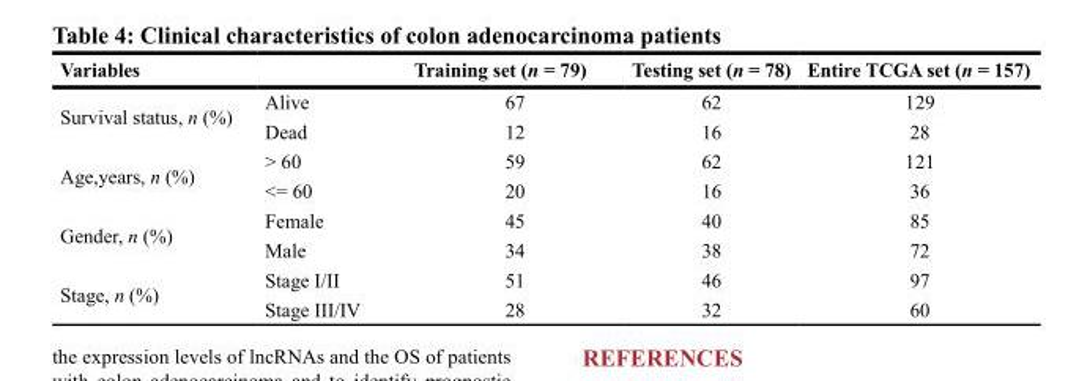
<table><thead><tr><td>Variables</td><td></td><td>Training set (n = 79)</td><td>Testing set (n = 78)</td><td>Entire TCGA set (n = 157)</td></tr></thead><tbody><tr><td rowspan="2">Survival status, n (%)</td><td>Alive</td><td>67</td><td>62</td><td>129</td></tr><tr><td>Dead</td><td>12</td><td>16</td><td>28</td></tr><tr><td rowspan="2">Age,years, n (%)</td><td>&gt; 60</td><td>59</td><td>62</td><td>121</td></tr><tr><td>&lt;= 60</td><td>20</td><td>16</td><td>36</td></tr><tr><td rowspan="2">Gender, n (%)</td><td>Female</td><td>45</td><td>40</td><td>85</td></tr><tr><td>Male</td><td>34</td><td>38</td><td>72</td></tr><tr><td rowspan="2">Stage, n (%)</td><td>Stage I/II</td><td>51</td><td>46</td><td>97</td></tr><tr><td>Stage III/IV</td><td>28</td><td>32</td><td>60</td></tr></tbody></table>